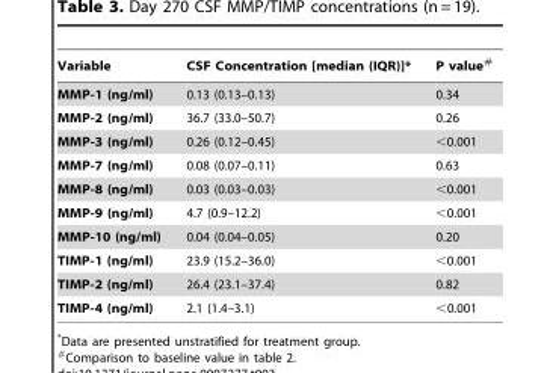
<table><thead><tr><td>Variable</td><td>CSF Concentration [median (IQR)]*</td><td>P value#</td></tr></thead><tbody><tr><td>MMP-1 (ng/ml)</td><td>0.13 (0.13–0.13)</td><td>0.34</td></tr><tr><td>MMP-2 (ng/ml)</td><td>36.7 (33.0–50.7)</td><td>0.26</td></tr><tr><td>MMP-3 (ng/ml)</td><td>0.26 (0.12–0.45)</td><td>&lt;0.001</td></tr><tr><td>MMP-7 (ng/ml)</td><td>0.08 (0.07–0.11)</td><td>0.63</td></tr><tr><td>MMP-8 (ng/ml)</td><td>0.03 (0.03–0.03)</td><td>&lt;0.001</td></tr><tr><td>MMP-9 (ng/ml)</td><td>4.7 (0.9–12.2)</td><td>&lt;0.001</td></tr><tr><td>MMP-10 (ng/ml)</td><td>0.04 (0.04–0.05)</td><td>0.20</td></tr><tr><td>TIMP-1 (ng/ml)</td><td>23.9 (15.2–36.0)</td><td>&lt;0.001</td></tr><tr><td>TIMP-2 (ng/ml)</td><td>26.4 (23.1–37.4)</td><td>0.82</td></tr><tr><td>TIMP-4 (ng/ml)</td><td>2.1 (1.4–3.1)</td><td>&lt;0.001</td></tr></tbody></table>